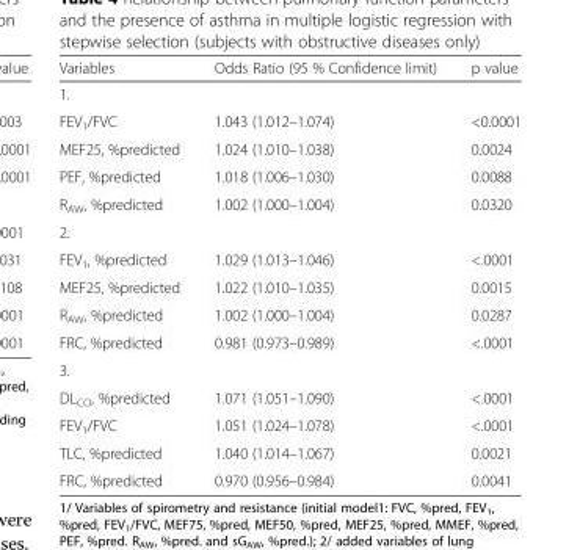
<table><thead><tr><td>Variables</td><td>Odds Ratio (95 % Confidence limit)</td><td>p value</td></tr></thead><tbody><tr><td colspan="3">1.</td></tr><tr><td>FEV<sub>1</sub>/FVC</td><td>1.043 (1.012–1.074)</td><td>&lt;0.0001</td></tr><tr><td>MEF25, %predicted</td><td>1.024 (1.010–1.038)</td><td>0.0024</td></tr><tr><td>PEF, %predicted</td><td>1.018 (1.006–1.030)</td><td>0.0088</td></tr><tr><td>R<sub>AW</sub>, %predicted</td><td>1.002 (1.000–1.004)</td><td>0.0320</td></tr><tr><td colspan="3">2.</td></tr><tr><td>FEV<sub>1</sub>, %predicted</td><td>1.029 (1.013–1.046)</td><td>&lt;.0001</td></tr><tr><td>MEF25, %predicted</td><td>1.022 (1.010–1.035)</td><td>0.0015</td></tr><tr><td>R<sub>AW</sub>, %predicted</td><td>1.002 (1.000–1.004)</td><td>0.0287</td></tr><tr><td>FRC, %predicted</td><td>0.981 (0.973–0.989)</td><td>&lt;.0001</td></tr><tr><td colspan="3">3.</td></tr><tr><td>DL<sub>CO</sub>, %predicted</td><td>1.071 (1.051–1.090)</td><td>&lt;.0001</td></tr><tr><td>FEV<sub>1</sub>/FVC</td><td>1.051 (1.024–1.078)</td><td>&lt;.0001</td></tr><tr><td>TLC, %predicted</td><td>1.040 (1.014–1.067)</td><td>0.0021</td></tr><tr><td>FRC, %predicted</td><td>0.970 (0.956–0.984)</td><td>0.0041</td></tr></tbody></table>